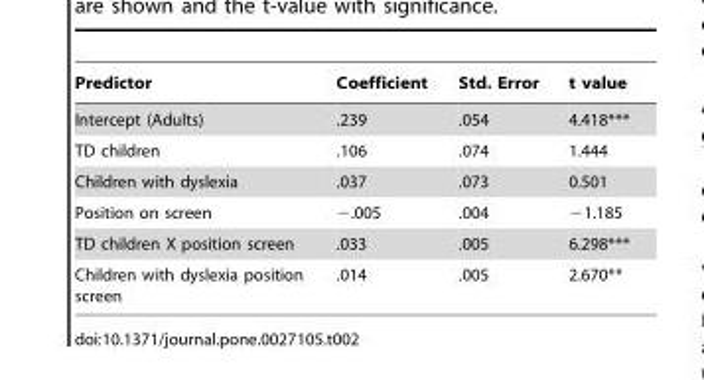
<table><thead><tr><td>Predictor</td><td>Coefficient</td><td>Std. Error</td><td>t value</td></tr></thead><tbody><tr><td>Intercept (Adults)</td><td>.239</td><td>.054</td><td>4.418***</td></tr><tr><td>TD children</td><td>.106</td><td>.074</td><td>1.444</td></tr><tr><td>Children with dyslexia</td><td>.037</td><td>.073</td><td>0.501</td></tr><tr><td>Position on screen</td><td>−.005</td><td>.004</td><td>−1.185</td></tr><tr><td>TD children X position screen</td><td>.033</td><td>.005</td><td>6.298***</td></tr><tr><td>Children with dyslexia position screen</td><td>.014</td><td>.005</td><td>2.670**</td></tr></tbody></table>